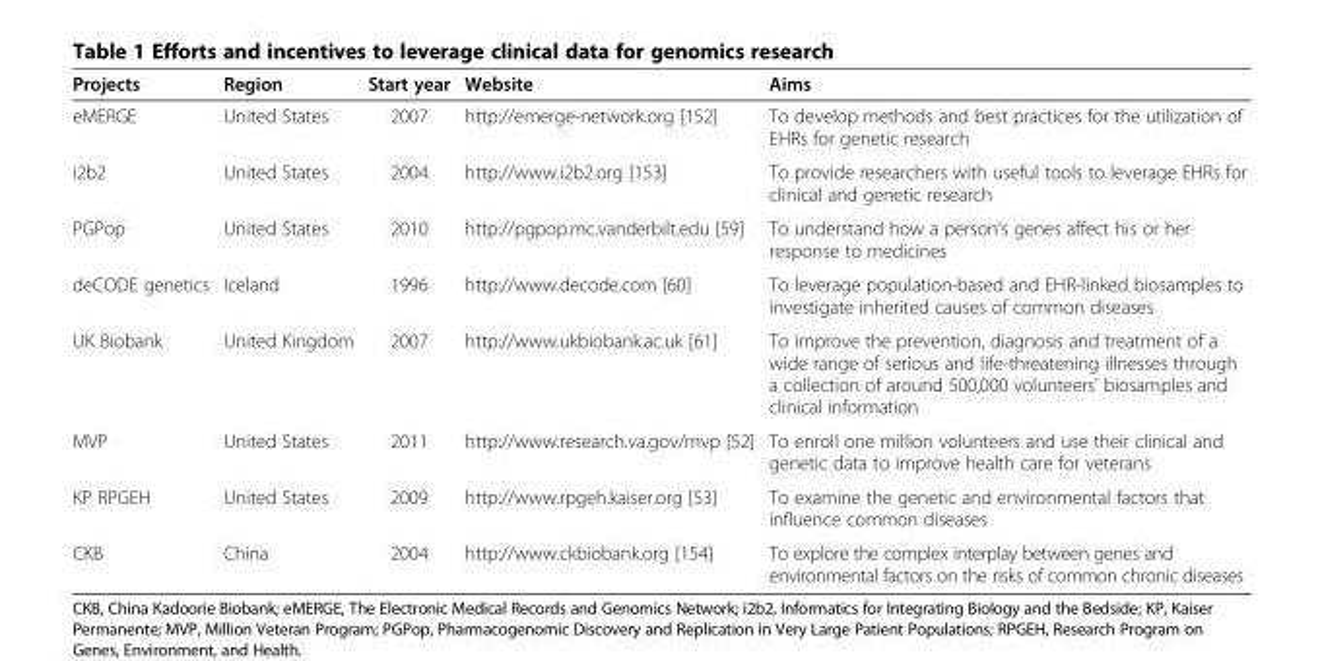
<table><thead><tr><td>Projects</td><td>Region</td><td>Start year</td><td>Website</td><td>Aims</td></tr></thead><tbody><tr><td>eMERGE</td><td>United States</td><td>2007</td><td>http://emerge-network.org [152]</td><td>To develop methods and best practices for the utilization of EHRs for genetic research</td></tr><tr><td>i2b2</td><td>United States</td><td>2004</td><td>http://www.i2b2.org [153]</td><td>To provide researchers with useful tools to leverage EHRs for clinical and genetic research</td></tr><tr><td>PGPop</td><td>United States</td><td>2010</td><td>http://pgpop.mc.vanderbilt.edu [59]</td><td>To understand how a person’s genes affect his or her response to medicines</td></tr><tr><td>deCODE genetics</td><td>Iceland</td><td>1996</td><td>http://www.decode.com [60]</td><td>To leverage population-based and EHR-linked biosamples to investigate inherited causes of common diseases</td></tr><tr><td>UK Biobank</td><td>United Kingdom</td><td>2007</td><td>http://www.ukbiobank.ac.uk [61]</td><td>To improve the prevention, diagnosis and treatment of a wide range of serious and life-threatening illnesses through a collection of around 500,000 volunteers&#x27; biosamples and clinical information</td></tr><tr><td>MVP</td><td>United States</td><td>2011</td><td>http://www.research.va.gov/mvp [52]</td><td>To enroll one million volunteers and use their clinical and genetic data to improve health care for veterans</td></tr><tr><td>KP RPGEH</td><td>United States</td><td>2009</td><td>http://www.rpgeh.kaiser.org [53]</td><td>To examine the genetic and environmental factors that influence common diseases</td></tr><tr><td>CKB</td><td>China</td><td>2004</td><td>http://www.ckbiobank.org [154]</td><td>To explore the complex interplay between genes and environmental factors on the risks of common chronic diseases</td></tr></tbody></table>